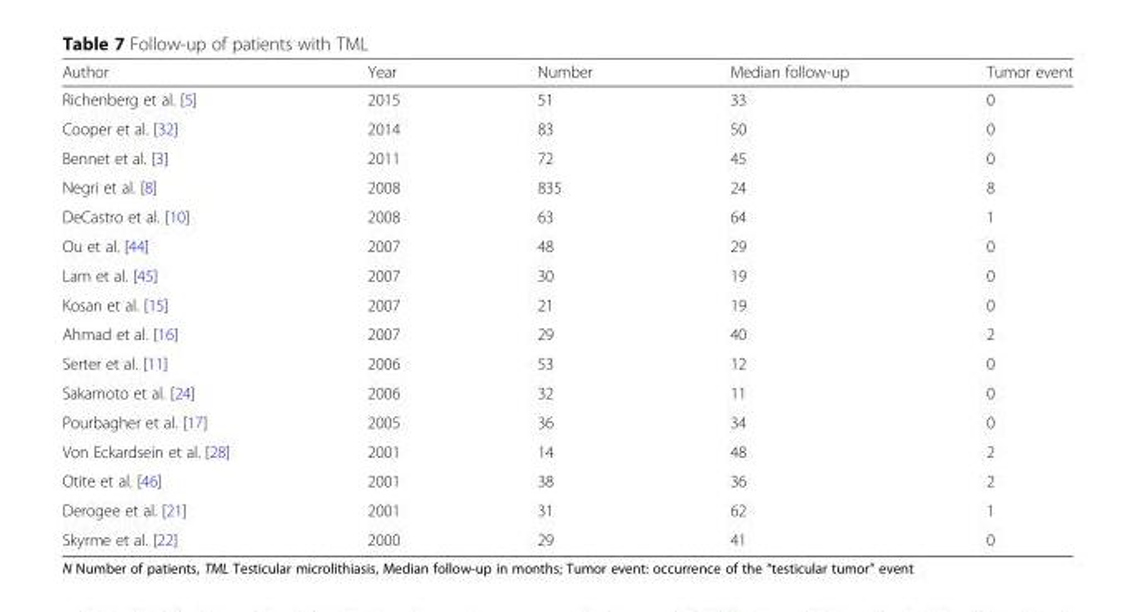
<table><thead><tr><td>Author</td><td>Year</td><td>Number</td><td>Median follow-up</td><td>Tumor event</td></tr></thead><tbody><tr><td>Richenberg et al. [5]</td><td>2015</td><td>51</td><td>33</td><td>0</td></tr><tr><td>Cooper et al. [32]</td><td>2014</td><td>83</td><td>50</td><td>0</td></tr><tr><td>Bennet et al. [3]</td><td>2011</td><td>72</td><td>45</td><td>0</td></tr><tr><td>Negri et al. [8]</td><td>2008</td><td>835</td><td>24</td><td>8</td></tr><tr><td>DeCastro et al. [10]</td><td>2008</td><td>63</td><td>64</td><td>1</td></tr><tr><td>Ou et al. [44]</td><td>2007</td><td>48</td><td>29</td><td>0</td></tr><tr><td>Lam et al. [45]</td><td>2007</td><td>30</td><td>19</td><td>0</td></tr><tr><td>Kosan et al. [15]</td><td>2007</td><td>21</td><td>19</td><td>0</td></tr><tr><td>Ahmad et al. [16]</td><td>2007</td><td>29</td><td>40</td><td>2</td></tr><tr><td>Serter et al. [11]</td><td>2006</td><td>53</td><td>12</td><td>0</td></tr><tr><td>Sakamoto et al. [24]</td><td>2006</td><td>32</td><td>11</td><td>0</td></tr><tr><td>Pourbagher et al. [17]</td><td>2005</td><td>36</td><td>34</td><td>0</td></tr><tr><td>Von Eckardsein et al. [28]</td><td>2001</td><td>14</td><td>48</td><td>2</td></tr><tr><td>Otite et al. [46]</td><td>2001</td><td>38</td><td>36</td><td>2</td></tr><tr><td>Derogee et al. [21]</td><td>2001</td><td>31</td><td>62</td><td>1</td></tr><tr><td>Skyrme et al. [22]</td><td>2000</td><td>29</td><td>41</td><td>0</td></tr></tbody></table>